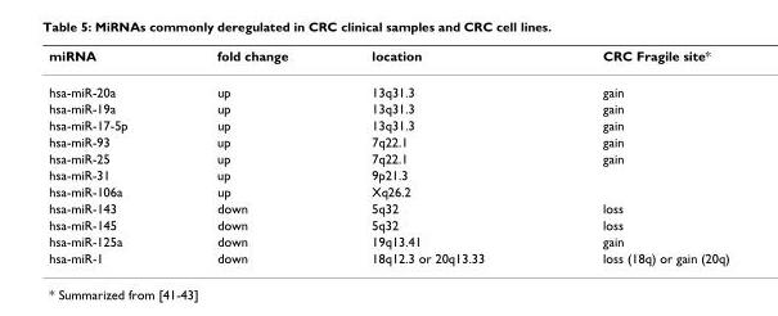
<table><thead><tr><td>miRNA</td><td>fold change</td><td>location</td><td>CRC Fragile site*</td></tr></thead><tbody><tr><td>hsa-miR-20a</td><td>up</td><td>13q31.3</td><td>gain</td></tr><tr><td>hsa-miR-19a</td><td>up</td><td>13q31.3</td><td>gain</td></tr><tr><td>hsa-miR-17-5p</td><td>up</td><td>13q31.3</td><td>gain</td></tr><tr><td>hsa-miR-93</td><td>up</td><td>7q22.1</td><td>gain</td></tr><tr><td>hsa-miR-25</td><td>up</td><td>7q22.1</td><td>gain</td></tr><tr><td>hsa-miR-31</td><td>up</td><td>9p21.3</td><td></td></tr><tr><td>hsa-miR-106a</td><td>up</td><td>Xq26.2</td><td></td></tr><tr><td>hsa-miR-143</td><td>down</td><td>5q32</td><td>loss</td></tr><tr><td>hsa-miR-145</td><td>down</td><td>5q32</td><td>loss</td></tr><tr><td>hsa-miR-125a</td><td>down</td><td>19q13.41</td><td>gain</td></tr><tr><td>hsa-miR-1</td><td>down</td><td>18q12.3 or 20q13.33</td><td>loss (18q) or gain (20q)</td></tr></tbody></table>